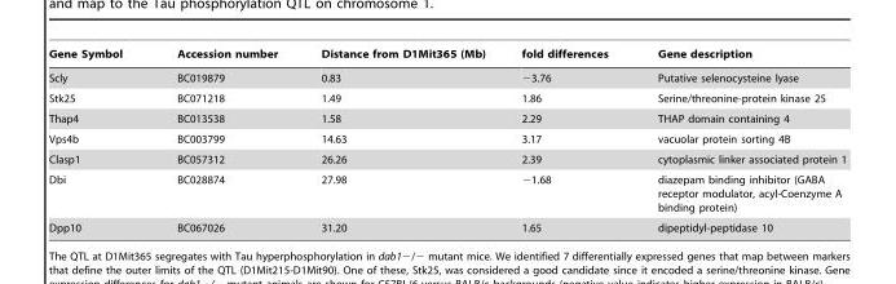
<table><thead><tr><td>Gene Symbol</td><td>Accession number</td><td>Distance from D1Mit365 (Mb)</td><td>fold differences</td><td>Gene description</td></tr></thead><tbody><tr><td>Scly</td><td>BC019879</td><td>0.83</td><td>−3.76</td><td>Putative selenocysteine lyase</td></tr><tr><td>Stk25</td><td>BC071218</td><td>1.49</td><td>1.86</td><td>Serine/threonine-protein kinase 25</td></tr><tr><td>Thap4</td><td>BC013538</td><td>1.58</td><td>2.29</td><td>THAP domain containing 4</td></tr><tr><td>Vps4b</td><td>BC003799</td><td>14.63</td><td>3.17</td><td>vacuolar protein sorting 4B</td></tr><tr><td>Clasp1</td><td>BC057312</td><td>26.26</td><td>2.39</td><td>cytoplasmic linker associated protein 1</td></tr><tr><td>Dbi</td><td>BC028874</td><td>27.98</td><td>−1.68</td><td>diazepam binding inhibitor (GABA receptor modulator, acyl-Coenzyme A binding protein)</td></tr><tr><td>Dpp10</td><td>BC067026</td><td>31.20</td><td>1.65</td><td>dipeptidyl-peptidase 10</td></tr></tbody></table>